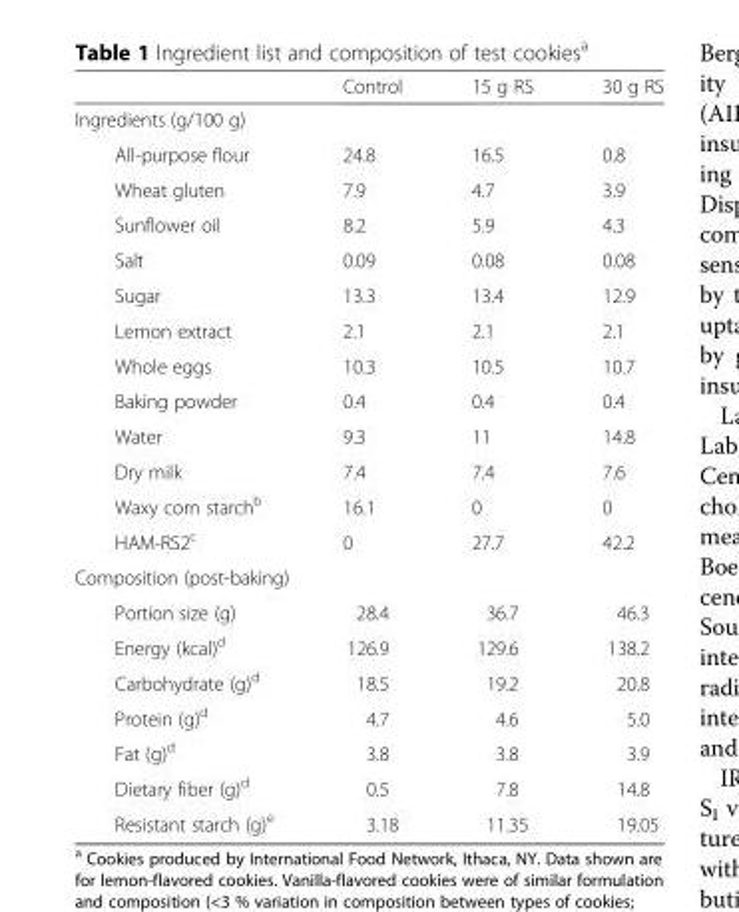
<table><thead><tr><td></td><td>Control</td><td>15 g RS</td><td>30 g RS</td></tr></thead><tbody><tr><td colspan="4">Ingredients (g/100 g)</td></tr><tr><td>All-purpose flour</td><td>24.8</td><td>16.5</td><td>0.8</td></tr><tr><td>Wheat gluten</td><td>7.9</td><td>4.7</td><td>3.9</td></tr><tr><td>Sunflower oil</td><td>8.2</td><td>5.9</td><td>4.3</td></tr><tr><td>Salt</td><td>0.09</td><td>0.08</td><td>0.08</td></tr><tr><td>Sugar</td><td>13.3</td><td>13.4</td><td>12.9</td></tr><tr><td>Lemon extract</td><td>2.1</td><td>2.1</td><td>2.1</td></tr><tr><td>Whole eggs</td><td>10.3</td><td>10.5</td><td>10.7</td></tr><tr><td>Baking powder</td><td>0.4</td><td>0.4</td><td>0.4</td></tr><tr><td>Water</td><td>9.3</td><td>11</td><td>14.8</td></tr><tr><td>Dry milk</td><td>7.4</td><td>7.4</td><td>7.6</td></tr><tr><td>Waxy corn starch<sup>b</sup></td><td>16.1</td><td>0</td><td>0</td></tr><tr><td>HAM-RS2<sup>c</sup></td><td>0</td><td>27.7</td><td>42.2</td></tr><tr><td colspan="4">Composition (post-baking)</td></tr><tr><td>Portion size (g)</td><td>28.4</td><td>36.7</td><td>46.3</td></tr><tr><td>Energy (kcal)<sup>d</sup></td><td>126.9</td><td>129.6</td><td>138.2</td></tr><tr><td>Carbohydrate (g)<sup>d</sup></td><td>18.5</td><td>19.2</td><td>20.8</td></tr><tr><td>Protein (g)<sup>d</sup></td><td>4.7</td><td>4.6</td><td>5.0</td></tr><tr><td>Fat (g)<sup>d</sup></td><td>3.8</td><td>3.8</td><td>3.9</td></tr><tr><td>Dietary fiber (g)<sup>d</sup></td><td>0.5</td><td>7.8</td><td>14.8</td></tr><tr><td>Resistant starch (g)<sup>e</sup></td><td>3.18</td><td>11.35</td><td>19.05</td></tr></tbody></table>